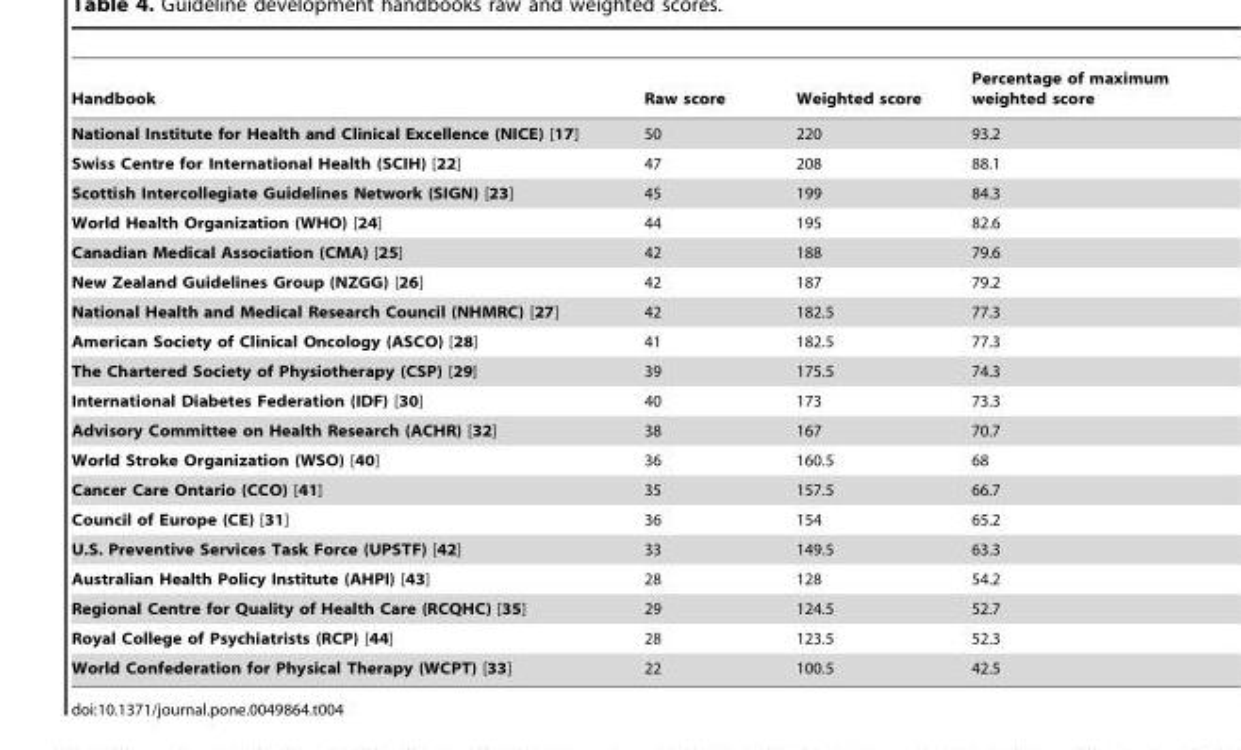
<table><thead><tr><td>Handbook</td><td>Raw score</td><td>Weighted score</td><td>Percentage of maximum weighted score</td></tr></thead><tbody><tr><td>National Institute for Health and Clinical Excellence (NICE) [17]</td><td>50</td><td>220</td><td>93.2</td></tr><tr><td>Swiss Centre for International Health (SCIH) [22]</td><td>47</td><td>208</td><td>88.1</td></tr><tr><td>Scottish Intercollegiate Guidelines Network (SIGN) [23]</td><td>45</td><td>199</td><td>84.3</td></tr><tr><td>World Health Organization (WHO) [24]</td><td>44</td><td>195</td><td>82.6</td></tr><tr><td>Canadian Medical Association (CMA) [25]</td><td>42</td><td>188</td><td>79.6</td></tr><tr><td>New Zealand Guidelines Group (NZGG) [26]</td><td>42</td><td>187</td><td>79.2</td></tr><tr><td>National Health and Medical Research Council (NHMRC) [27]</td><td>42</td><td>182.5</td><td>77.3</td></tr><tr><td>American Society of Clinical Oncology (ASCO) [28]</td><td>41</td><td>182.5</td><td>77.3</td></tr><tr><td>The Chartered Society of Physiotherapy (CSP) [29]</td><td>39</td><td>175.5</td><td>74.3</td></tr><tr><td>International Diabetes Federation (IDF) [30]</td><td>40</td><td>173</td><td>73.3</td></tr><tr><td>Advisory Committee on Health Research (ACHR) [32]</td><td>38</td><td>167</td><td>70.7</td></tr><tr><td>World Stroke Organization (WSO) [40]</td><td>36</td><td>160.5</td><td>68</td></tr><tr><td>Cancer Care Ontario (CCO) [41]</td><td>35</td><td>157.5</td><td>66.7</td></tr><tr><td>Council of Europe (CE) [31]</td><td>36</td><td>154</td><td>65.2</td></tr><tr><td>U.S. Preventive Services Task Force (UPSTF) [42]</td><td>33</td><td>149.5</td><td>63.3</td></tr><tr><td>Australian Health Policy Institute (AHPI) [43]</td><td>28</td><td>128</td><td>54.2</td></tr><tr><td>Regional Centre for Quality of Health Care (RCQHC) [35]</td><td>29</td><td>124.5</td><td>52.7</td></tr><tr><td>Royal College of Psychiatrists (RCP) [44]</td><td>28</td><td>123.5</td><td>52.3</td></tr><tr><td>World Confederation for Physical Therapy (WCPT) [33]</td><td>22</td><td>100.5</td><td>42.5</td></tr></tbody></table>